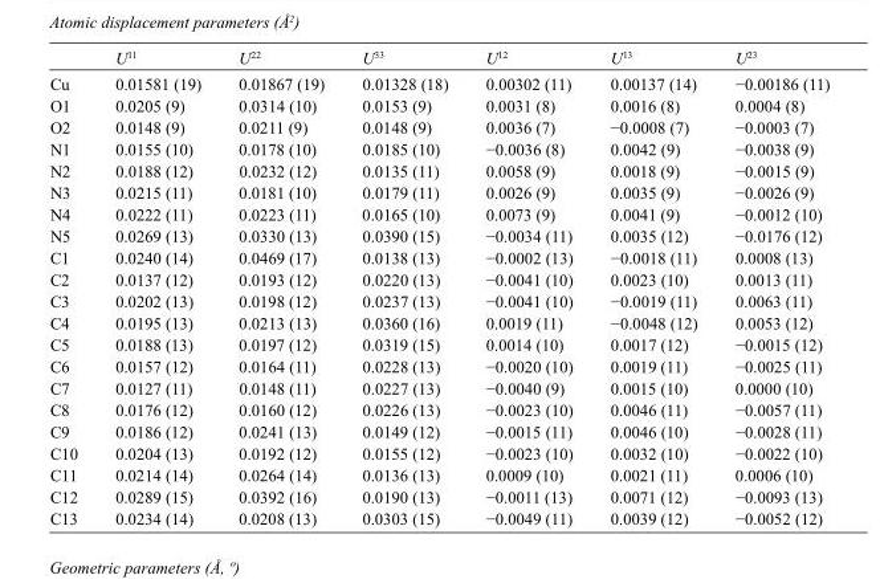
<table><thead><tr><td></td><td>U<sup>11</sup></td><td>U<sup>22</sup></td><td>U<sup>33</sup></td><td>U<sup>12</sup></td><td>U<sup>13</sup></td><td>U<sup>23</sup></td></tr></thead><tbody><tr><td>Cu</td><td>0.01581 (19)</td><td>0.01867 (19)</td><td>0.01328 (18)</td><td>0.00302 (11)</td><td>0.00137 (14)</td><td>−0.00186 (11)</td></tr><tr><td>O1</td><td>0.0205 (9)</td><td>0.0314 (10)</td><td>0.0153 (9)</td><td>0.0031 (8)</td><td>0.0016 (8)</td><td>0.0004 (8)</td></tr><tr><td>O2</td><td>0.0148 (9)</td><td>0.0211 (9)</td><td>0.0148 (9)</td><td>0.0036 (7)</td><td>−0.0008 (7)</td><td>−0.0003 (7)</td></tr><tr><td>N1</td><td>0.0155 (10)</td><td>0.0178 (10)</td><td>0.0185 (10)</td><td>−0.0036 (8)</td><td>0.0042 (9)</td><td>−0.0038 (9)</td></tr><tr><td>N2</td><td>0.0188 (12)</td><td>0.0232 (12)</td><td>0.0135 (11)</td><td>0.0058 (9)</td><td>0.0018 (9)</td><td>−0.0015 (9)</td></tr><tr><td>N3</td><td>0.0215 (11)</td><td>0.0181 (10)</td><td>0.0179 (11)</td><td>0.0026 (9)</td><td>0.0035 (9)</td><td>−0.0026 (9)</td></tr><tr><td>N4</td><td>0.0222 (11)</td><td>0.0223 (11)</td><td>0.0165 (10)</td><td>0.0073 (9)</td><td>0.0041 (9)</td><td>−0.0012 (10)</td></tr><tr><td>N5</td><td>0.0269 (13)</td><td>0.0330 (13)</td><td>0.0390 (15)</td><td>−0.0034 (11)</td><td>0.0035 (12)</td><td>−0.0176 (12)</td></tr><tr><td>C1</td><td>0.0240 (14)</td><td>0.0469 (17)</td><td>0.0138 (13)</td><td>−0.0002 (13)</td><td>−0.0018 (11)</td><td>0.0008 (13)</td></tr><tr><td>C2</td><td>0.0137 (12)</td><td>0.0193 (12)</td><td>0.0220 (13)</td><td>−0.0041 (10)</td><td>0.0023 (10)</td><td>0.0013 (11)</td></tr><tr><td>C3</td><td>0.0202 (13)</td><td>0.0198 (12)</td><td>0.0237 (13)</td><td>−0.0041 (10)</td><td>−0.0019 (11)</td><td>0.0063 (11)</td></tr><tr><td>C4</td><td>0.0195 (13)</td><td>0.0213 (13)</td><td>0.0360 (16)</td><td>0.0019 (11)</td><td>−0.0048 (12)</td><td>0.0053 (12)</td></tr><tr><td>C5</td><td>0.0188 (13)</td><td>0.0197 (12)</td><td>0.0319 (15)</td><td>0.0014 (10)</td><td>0.0017 (12)</td><td>−0.0015 (12)</td></tr><tr><td>C6</td><td>0.0157 (12)</td><td>0.0164 (11)</td><td>0.0228 (13)</td><td>−0.0020 (10)</td><td>0.0019 (11)</td><td>−0.0025 (11)</td></tr><tr><td>C7</td><td>0.0127 (11)</td><td>0.0148 (11)</td><td>0.0227 (13)</td><td>−0.0040 (9)</td><td>0.0015 (10)</td><td>0.0000 (10)</td></tr><tr><td>C8</td><td>0.0176 (12)</td><td>0.0160 (12)</td><td>0.0226 (13)</td><td>−0.0023 (10)</td><td>0.0046 (11)</td><td>−0.0057 (11)</td></tr><tr><td>C9</td><td>0.0186 (12)</td><td>0.0241 (13)</td><td>0.0149 (12)</td><td>−0.0015 (11)</td><td>0.0046 (10)</td><td>−0.0028 (11)</td></tr><tr><td>C10</td><td>0.0204 (13)</td><td>0.0192 (12)</td><td>0.0155 (12)</td><td>−0.0023 (10)</td><td>0.0032 (10)</td><td>−0.0022 (10)</td></tr><tr><td>C11</td><td>0.0214 (14)</td><td>0.0264 (14)</td><td>0.0136 (13)</td><td>0.0009 (10)</td><td>0.0021 (11)</td><td>0.0006 (10)</td></tr><tr><td>C12</td><td>0.0289 (15)</td><td>0.0392 (16)</td><td>0.0190 (13)</td><td>−0.0011 (13)</td><td>0.0071 (12)</td><td>−0.0093 (13)</td></tr><tr><td>C13</td><td>0.0234 (14)</td><td>0.0208 (13)</td><td>0.0303 (15)</td><td>−0.0049 (11)</td><td>0.0039 (12)</td><td>−0.0052 (12)</td></tr></tbody></table>